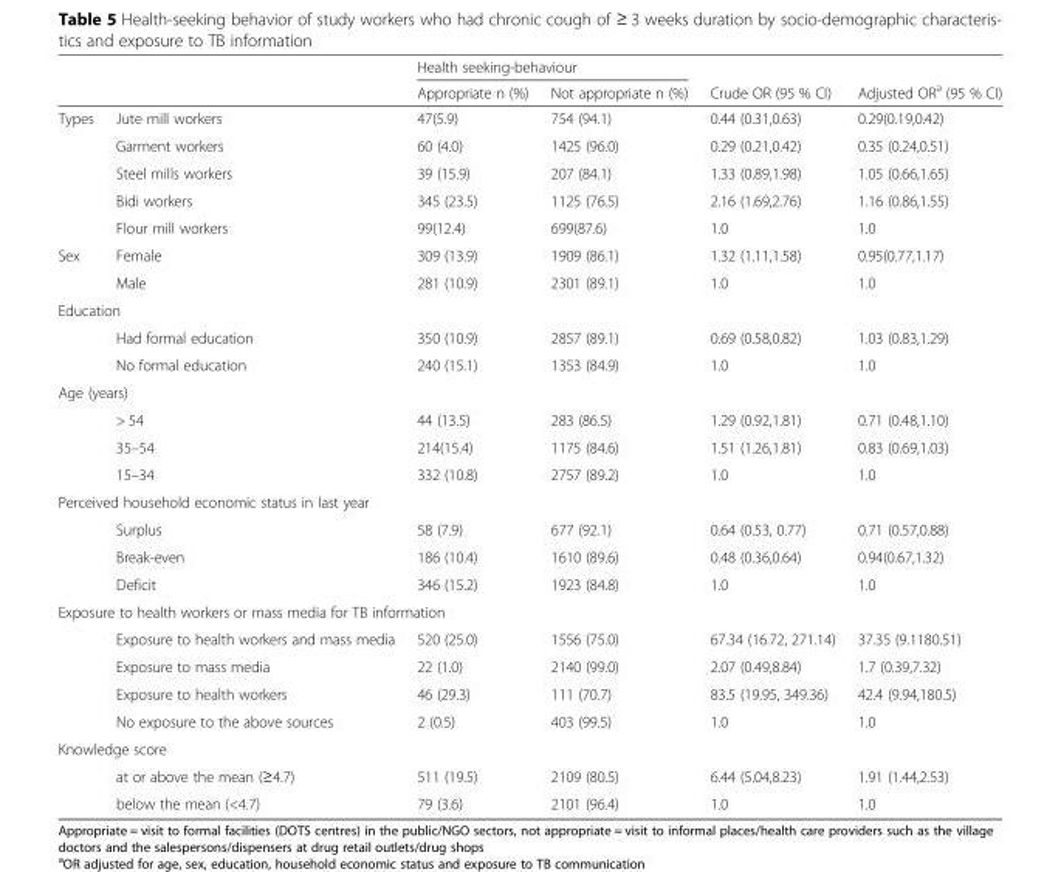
<table><thead><tr><td rowspan="2"></td><td rowspan="2"></td><td colspan="2">Health seeking-behaviour</td><td rowspan="2">Crude OR (95 % CI)</td><td rowspan="2">Adjusted OR<sup>a</sup> (95 % CI)</td></tr><tr><td>Appropriate n (%)</td><td>Not appropriate n (%)</td></tr></thead><tbody><tr><td rowspan="5">Types</td><td>Jute mill workers</td><td>47(5.9)</td><td>754 (94.1)</td><td>0.44 (0.31,0.63)</td><td>0.29(0.19,0.42)</td></tr><tr><td>Garment workers</td><td>60 (4.0)</td><td>1425 (96.0)</td><td>0.29 (0.21,0.42)</td><td>0.35 (0.24,0.51)</td></tr><tr><td>Steel mills workers</td><td>39 (15.9)</td><td>207 (84.1)</td><td>1.33 (0.89,1.98)</td><td>1.05 (0.66,1.65)</td></tr><tr><td>Bidi workers</td><td>345 (23.5)</td><td>1125 (76.5)</td><td>2.16 (1.69,2.76)</td><td>1.16 (0.86,1.55)</td></tr><tr><td>Flour mill workers</td><td>99(12.4)</td><td>699(87.6)</td><td>1.0</td><td>1.0</td></tr><tr><td rowspan="2">Sex</td><td>Female</td><td>309 (13.9)</td><td>1909 (86.1)</td><td>1.32 (1.11,1.58)</td><td>0.95(0.77,1.17)</td></tr><tr><td>Male</td><td>281 (10.9)</td><td>2301 (89.1)</td><td>1.0</td><td>1.0</td></tr><tr><td colspan="6">Education</td></tr><tr><td></td><td>Had formal education</td><td>350 (10.9)</td><td>2857 (89.1)</td><td>0.69 (0.58,0.82)</td><td>1.03 (0.83,1.29)</td></tr><tr><td></td><td>No formal education</td><td>240 (15.1)</td><td>1353 (84.9)</td><td>1.0</td><td>1.0</td></tr><tr><td colspan="6">Age (years)</td></tr><tr><td></td><td>&gt; 54</td><td>44 (13.5)</td><td>283 (86.5)</td><td>1.29 (0.92,1.81)</td><td>0.71 (0.48,1.10)</td></tr><tr><td></td><td>35–54</td><td>214(15.4)</td><td>1175 (84.6)</td><td>1.51 (1.26,1.81)</td><td>0.83 (0.69,1.03)</td></tr><tr><td></td><td>15–34</td><td>332 (10.8)</td><td>2757 (89.2)</td><td>1.0</td><td>1.0</td></tr><tr><td colspan="6">Perceived household economic status in last year</td></tr><tr><td></td><td>Surplus</td><td>58 (7.9)</td><td>677 (92.1)</td><td>0.64 (0.53, 0.77)</td><td>0.71 (0.57,0.88)</td></tr><tr><td></td><td>Break-even</td><td>186 (10.4)</td><td>1610 (89.6)</td><td>0.48 (0.36,0.64)</td><td>0.94(0.67,1.32)</td></tr><tr><td></td><td>Deficit</td><td>346 (15.2)</td><td>1923 (84.8)</td><td>1.0</td><td>1.0</td></tr><tr><td colspan="6">Exposure to health workers or mass media for TB information</td></tr><tr><td></td><td>Exposure to health workers and mass media</td><td>520 (25.0)</td><td>1556 (75.0)</td><td>67.34 (16.72, 271.14)</td><td>37.35 (9.1180.51)</td></tr><tr><td></td><td>Exposure to mass media</td><td>22 (1.0)</td><td>2140 (99.0)</td><td>2.07 (0.49,8.84)</td><td>1.7 (0.39,7.32)</td></tr><tr><td></td><td>Exposure to health workers</td><td>46 (29.3)</td><td>111 (70.7)</td><td>83.5 (19.95, 349.36)</td><td>42.4 (9.94,180.5)</td></tr><tr><td></td><td>No exposure to the above sources</td><td>2 (0.5)</td><td>403 (99.5)</td><td>1.0</td><td>1.0</td></tr><tr><td colspan="6">Knowledge score</td></tr><tr><td></td><td>at or above the mean (≥4.7)</td><td>511 (19.5)</td><td>2109 (80.5)</td><td>6.44 (5.04,8.23)</td><td>1.91 (1.44,2.53)</td></tr><tr><td></td><td>below the mean (&lt;4.7)</td><td>79 (3.6)</td><td>2101 (96.4)</td><td>1.0</td><td>1.0</td></tr></tbody></table>